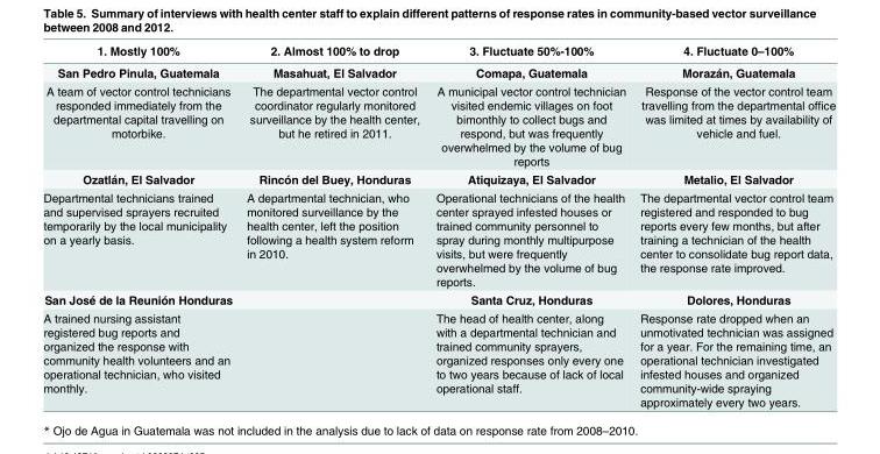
<table><thead><tr><td>1. Mostly 100%</td><td>2. Almost 100% to drop</td><td>3. Fluctuate 50%-100%</td><td>4. Fluctuate 0–100%</td></tr></thead><tbody><tr><td>San Pedro Pinula, Guatemala</td><td>Masahuat, El Salvador</td><td>Comapa, Guatemala</td><td>Morazán, Guatemala</td></tr><tr><td>A team of vector control technicians responded immediately from the departmental capital travelling on motorbike.</td><td>The departmental vector control coordinator regularly monitored surveillance by the health center, but he retired in 2011.</td><td>A municipal vector control technician visited endemic villages on foot bimonthly to collect bugs and respond, but was frequently overwhelmed by the volume of bug reports</td><td>Response of the vector control team travelling from the departmental office was limited at times by availability of vehicle and fuel.</td></tr><tr><td>Ozatlán, El Salvador</td><td>Rincón del Buey, Honduras</td><td>Atiquizaya, El Salvador</td><td>Metalio, El Salvador</td></tr><tr><td>Departmental technicians trained and supervised sprayers recruited temporarily by the local municipality on a yearly basis.</td><td>A departmental technician, who monitored surveillance by the health center, left the position following a health system reform in 2010.</td><td>Operational technicians of the health center sprayed infested houses or trained community personnel to spray during monthly multipurpose visits, but were frequently overwhelmed by the volume of bug reports.</td><td>The departmental vector control team registered and responded to bug reports every few months, but after training a technician of the health center to consolidate bug report data, the response rate improved.</td></tr><tr><td>San José de la Reunión Honduras</td><td></td><td>Santa Cruz, Honduras</td><td>Dolores, Honduras</td></tr><tr><td>A trained nursing assistant registered bug reports and organized the response with community health volunteers and an operational technician, who visited monthly.</td><td></td><td>The head of health center, along with a departmental technician and trained community sprayers, organized responses only every one to two years because of lack of local operational staff.</td><td>Response rate dropped when an unmotivated technician was assigned for a year. For the remaining time, an operational technician investigated infested houses and organized community-wide spraying approximately every two years.</td></tr></tbody></table>